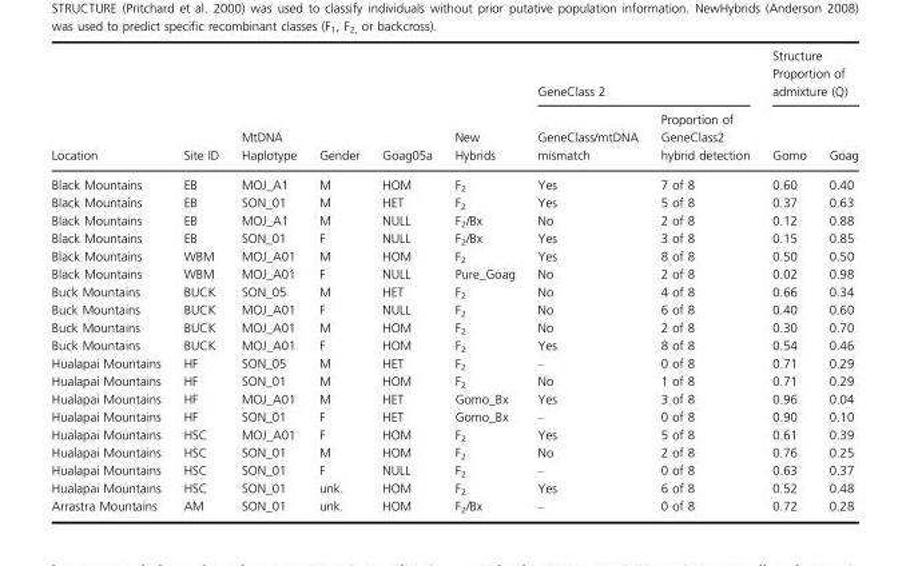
<table><thead><tr><td rowspan="2">Location</td><td rowspan="2">Site ID</td><td rowspan="2">MtDNA Haplotype</td><td rowspan="2">Gender</td><td rowspan="2">Goag05a</td><td rowspan="2">New Hybrids</td><td colspan="2">GeneClass 2</td><td colspan="2">Structure Proportion of admixture (Q)</td></tr><tr><td>GeneClass/mtDNA mismatch</td><td>Proportion of GeneClass2 hybrid detection</td><td>Gomo</td><td>Goag</td></tr></thead><tbody><tr><td>Black Mountains</td><td>EB</td><td>MOJ_A1</td><td>M</td><td>HOM</td><td>F<sub>2</sub></td><td>Yes</td><td>7 of 8</td><td>0.60</td><td>0.40</td></tr><tr><td>Black Mountains</td><td>EB</td><td>SON_01</td><td>M</td><td>HET</td><td>F<sub>2</sub></td><td>Yes</td><td>5 of 8</td><td>0.37</td><td>0.63</td></tr><tr><td>Black Mountains</td><td>EB</td><td>MOJ_A1</td><td>M</td><td>NULL</td><td>F<sub>2</sub>/Bx</td><td>No</td><td>2 of 8</td><td>0.12</td><td>0.88</td></tr><tr><td>Black Mountains</td><td>EB</td><td>SON_01</td><td>F</td><td>NULL</td><td>F<sub>2</sub>/Bx</td><td>Yes</td><td>3 of 8</td><td>0.15</td><td>0.85</td></tr><tr><td>Black Mountains</td><td>WBM</td><td>MOJ_A01</td><td>M</td><td>HOM</td><td>F<sub>2</sub></td><td>Yes</td><td>8 of 8</td><td>0.50</td><td>0.50</td></tr><tr><td>Black Mountains</td><td>WBM</td><td>MOJ_A01</td><td>F</td><td>NULL</td><td>Pure_Goag</td><td>No</td><td>2 of 8</td><td>0.02</td><td>0.98</td></tr><tr><td>Buck Mountains</td><td>BUCK</td><td>SON_05</td><td>M</td><td>HET</td><td>F<sub>2</sub></td><td>No</td><td>4 of 8</td><td>0.66</td><td>0.34</td></tr><tr><td>Buck Mountains</td><td>BUCK</td><td>MOJ_A01</td><td>F</td><td>NULL</td><td>F<sub>2</sub></td><td>No</td><td>6 of 8</td><td>0.40</td><td>0.60</td></tr><tr><td>Buck Mountains</td><td>BUCK</td><td>MOJ_A01</td><td>M</td><td>HOM</td><td>F<sub>2</sub></td><td>No</td><td>2 of 8</td><td>0.30</td><td>0.70</td></tr><tr><td>Buck Mountains</td><td>BUCK</td><td>MOJ_A01</td><td>F</td><td>HOM</td><td>F<sub>2</sub></td><td>Yes</td><td>8 of 8</td><td>0.54</td><td>0.46</td></tr><tr><td>Hualapai Mountains</td><td>HF</td><td>SON_05</td><td>M</td><td>HET</td><td>F<sub>2</sub></td><td>–</td><td>0 of 8</td><td>0.71</td><td>0.29</td></tr><tr><td>Hualapai Mountains</td><td>HF</td><td>SON_01</td><td>M</td><td>HOM</td><td>F<sub>2</sub></td><td>No</td><td>1 of 8</td><td>0.71</td><td>0.29</td></tr><tr><td>Hualapai Mountains</td><td>HF</td><td>MOJ_A01</td><td>M</td><td>HET</td><td>Gomo_Bx</td><td>Yes</td><td>3 of 8</td><td>0.96</td><td>0.04</td></tr><tr><td>Hualapai Mountains</td><td>HF</td><td>SON_01</td><td>F</td><td>HET</td><td>Gomo_Bx</td><td>–</td><td>0 of 8</td><td>0.90</td><td>0.10</td></tr><tr><td>Hualapai Mountains</td><td>HSC</td><td>MOJ_A01</td><td>F</td><td>HOM</td><td>F<sub>2</sub></td><td>Yes</td><td>5 of 8</td><td>0.61</td><td>0.39</td></tr><tr><td>Hualapai Mountains</td><td>HSC</td><td>SON_01</td><td>M</td><td>HOM</td><td>F<sub>2</sub></td><td>No</td><td>2 of 8</td><td>0.76</td><td>0.25</td></tr><tr><td>Hualapai Mountains</td><td>HSC</td><td>SON_01</td><td>F</td><td>NULL</td><td>F<sub>2</sub></td><td>–</td><td>0 of 8</td><td>0.63</td><td>0.37</td></tr><tr><td>Hualapai Mountains</td><td>HSC</td><td>SON_01</td><td>unk.</td><td>HOM</td><td>F<sub>2</sub></td><td>Yes</td><td>6 of 8</td><td>0.52</td><td>0.48</td></tr><tr><td>Arrastra Mountains</td><td>AM</td><td>SON_01</td><td>unk.</td><td>HOM</td><td>F<sub>2</sub>/Bx</td><td>–</td><td>0 of 8</td><td>0.72</td><td>0.28</td></tr></tbody></table>